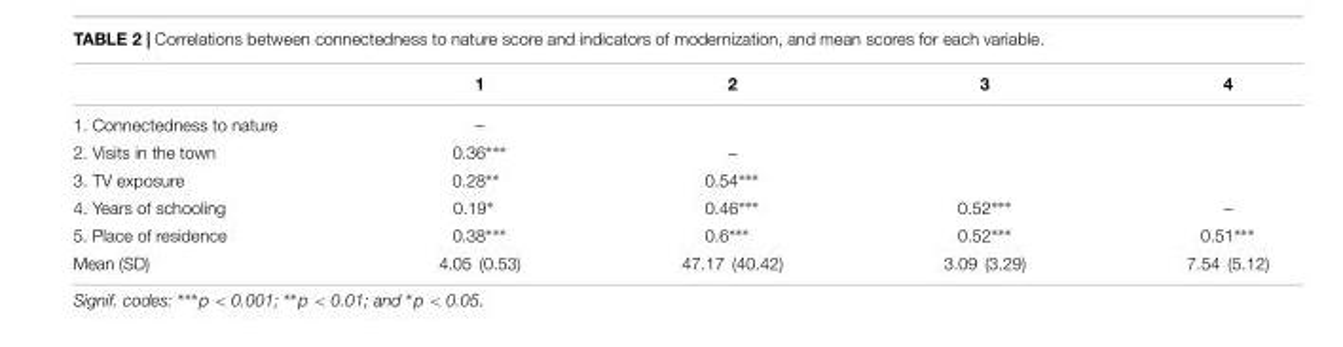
<table><thead><tr><td></td><td>1</td><td>2</td><td>3</td><td>4</td></tr></thead><tbody><tr><td>1. Connectedness to nature</td><td>–</td><td></td><td></td><td></td></tr><tr><td>2. Visits in the town</td><td>0.36∗∗∗</td><td>–</td><td></td><td></td></tr><tr><td>3. TV exposure</td><td>0.28∗∗</td><td>0.54∗∗∗</td><td></td><td></td></tr><tr><td>4. Years of schooling</td><td>0.19∗</td><td>0.46∗∗∗</td><td>0.52∗∗∗</td><td>–</td></tr><tr><td>5. Place of residence</td><td>0.38∗∗∗</td><td>0.6∗∗∗</td><td>0.52∗∗∗</td><td>0.51∗∗∗</td></tr><tr><td>Mean (SD)</td><td>4.05 (0.53)</td><td>47.17 (40.42)</td><td>3.09 (3.29)</td><td>7.54 (5.12)</td></tr></tbody></table>